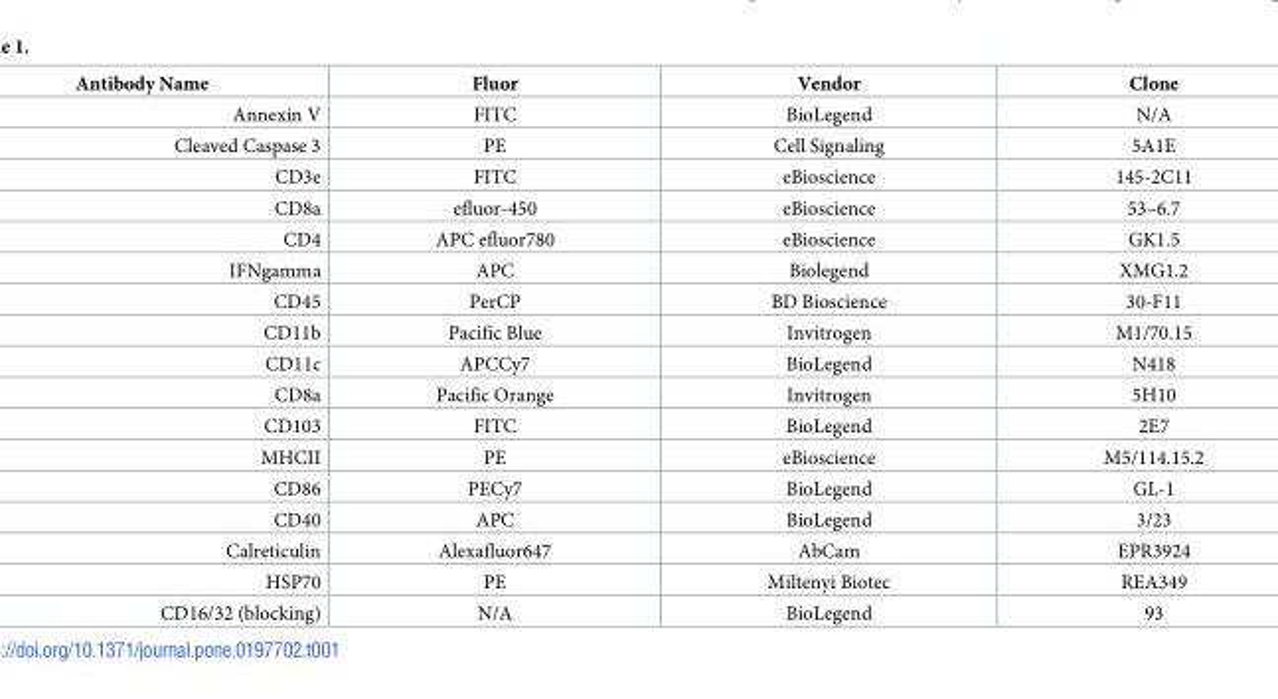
<table><thead><tr><td>Antibody Name</td><td>Fluor</td><td>Vendor</td><td>Clone</td></tr></thead><tbody><tr><td>Annexin V</td><td>FITC</td><td>BioLegend</td><td>N/A</td></tr><tr><td>Cleaved Caspase 3</td><td>PE</td><td>Cell Signaling</td><td>5A1E</td></tr><tr><td>CD3e</td><td>FITC</td><td>eBioscience</td><td>145-2C11</td></tr><tr><td>CD8a</td><td>efluor-450</td><td>eBioscience</td><td>53–6.7</td></tr><tr><td>CD4</td><td>APC efluor780</td><td>eBioscience</td><td>GK1.5</td></tr><tr><td>IFNgamma</td><td>APC</td><td>Biolegend</td><td>XMG1.2</td></tr><tr><td>CD45</td><td>PerCP</td><td>BD Bioscience</td><td>30-F11</td></tr><tr><td>CD11b</td><td>Pacific Blue</td><td>Invitrogen</td><td>M1/70.15</td></tr><tr><td>CD11c</td><td>APCCy7</td><td>BioLegend</td><td>N418</td></tr><tr><td>CD8a</td><td>Pacific Orange</td><td>Invitrogen</td><td>5H10</td></tr><tr><td>CD103</td><td>FITC</td><td>BioLegend</td><td>2E7</td></tr><tr><td>MHCII</td><td>PE</td><td>eBioscience</td><td>M5/114.15.2</td></tr><tr><td>CD86</td><td>PECy7</td><td>BioLegend</td><td>GL-1</td></tr><tr><td>CD40</td><td>APC</td><td>BioLegend</td><td>3/23</td></tr><tr><td>Calreticulin</td><td>Alexafluor647</td><td>AbCam</td><td>EPR3924</td></tr><tr><td>HSP70</td><td>PE</td><td>Miltenyi Biotec</td><td>REA349</td></tr><tr><td>CD16/32 (blocking)</td><td>N/A</td><td>BioLegend</td><td>93</td></tr></tbody></table>